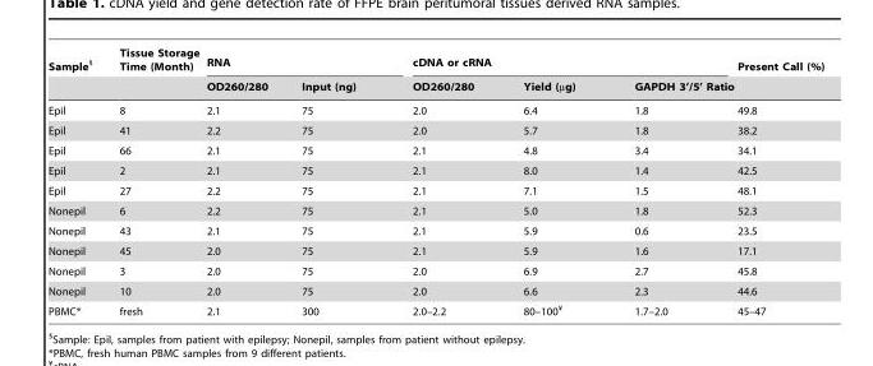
<table><thead><tr><td rowspan="2">Sample§</td><td rowspan="2">Tissue Storage Time (Month)</td><td colspan="2">RNA</td><td colspan="3">cDNA or cRNA</td><td rowspan="2">Present Call (%)</td></tr><tr><td>OD260/280</td><td>Input (ng)</td><td>OD260/280</td><td>Yield (µg)</td><td>GAPDH 3’/5’ Ratio</td></tr></thead><tbody><tr><td>Epil</td><td>8</td><td>2.1</td><td>75</td><td>2.0</td><td>6.4</td><td>1.8</td><td>49.8</td></tr><tr><td>Epil</td><td>41</td><td>2.2</td><td>75</td><td>2.0</td><td>5.7</td><td>1.8</td><td>38.2</td></tr><tr><td>Epil</td><td>66</td><td>2.1</td><td>75</td><td>2.1</td><td>4.8</td><td>3.4</td><td>34.1</td></tr><tr><td>Epil</td><td>2</td><td>2.1</td><td>75</td><td>2.1</td><td>8.0</td><td>1.4</td><td>42.5</td></tr><tr><td>Epil</td><td>27</td><td>2.2</td><td>75</td><td>2.1</td><td>7.1</td><td>1.5</td><td>48.1</td></tr><tr><td>Nonepil</td><td>6</td><td>2.2</td><td>75</td><td>2.1</td><td>5.0</td><td>1.8</td><td>52.3</td></tr><tr><td>Nonepil</td><td>43</td><td>2.1</td><td>75</td><td>2.1</td><td>5.9</td><td>0.6</td><td>23.5</td></tr><tr><td>Nonepil</td><td>45</td><td>2.0</td><td>75</td><td>2.1</td><td>5.9</td><td>1.6</td><td>17.1</td></tr><tr><td>Nonepil</td><td>3</td><td>2.0</td><td>75</td><td>2.0</td><td>6.9</td><td>2.7</td><td>45.8</td></tr><tr><td>Nonepil</td><td>10</td><td>2.0</td><td>75</td><td>2.0</td><td>6.6</td><td>2.3</td><td>44.6</td></tr><tr><td>PBMC*</td><td>fresh</td><td>2.1</td><td>300</td><td>2.0–2.2</td><td>80–100¥</td><td>1.7–2.0</td><td>45–47</td></tr></tbody></table>